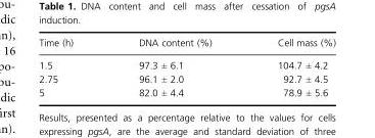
<table><thead><tr><td>Time (h)</td><td>DNA content (%)</td><td>Cell mass (%)</td></tr></thead><tbody><tr><td>1.5</td><td>97.3 ± 6.1</td><td>104.7 ± 4.2</td></tr><tr><td>2.75</td><td>96.1 ± 2.0</td><td>92.7 ± 4.5</td></tr><tr><td>5</td><td>82.0 ± 4.4</td><td>78.9 ± 5.6</td></tr></tbody></table>